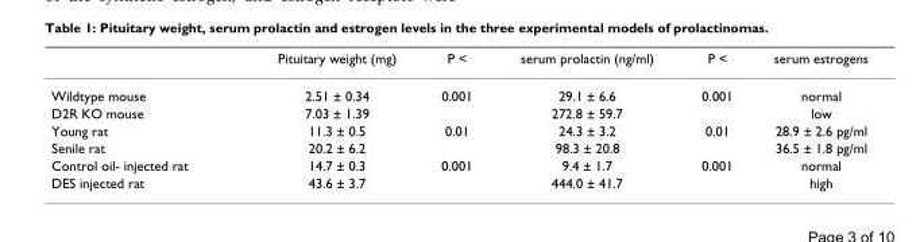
<table><thead><tr><td></td><td>Pituitary weight (mg)</td><td>P &lt;</td><td>serum prolactin (ng/ml)</td><td>P &lt;</td><td>serum estrogens</td></tr></thead><tbody><tr><td>Wildtype mouse</td><td>2.51 ± 0.34</td><td>0.001</td><td>29.1 ± 6.6</td><td>0.001</td><td>normal</td></tr><tr><td>D2R KO mouse</td><td>7.03 ± 1.39</td><td></td><td>272.8 ± 59.7</td><td></td><td>low</td></tr><tr><td>Young rat</td><td>11.3 ± 0.5</td><td>0.01</td><td>24.3 ± 3.2</td><td>0.01</td><td>28.9 ± 2.6 pg/ml</td></tr><tr><td>Senile rat</td><td>20.2 ± 6.2</td><td></td><td>98.3 ± 20.8</td><td></td><td>36.5 ± 1.8 pg/ml</td></tr><tr><td>Control oil- injected rat</td><td>14.7 ± 0.3</td><td>0.001</td><td>9.4 ± 1.7</td><td>0.001</td><td>normal</td></tr><tr><td>DES injected rat</td><td>43.6 ± 3.7</td><td></td><td>444.0 ± 41.7</td><td></td><td>high</td></tr></tbody></table>